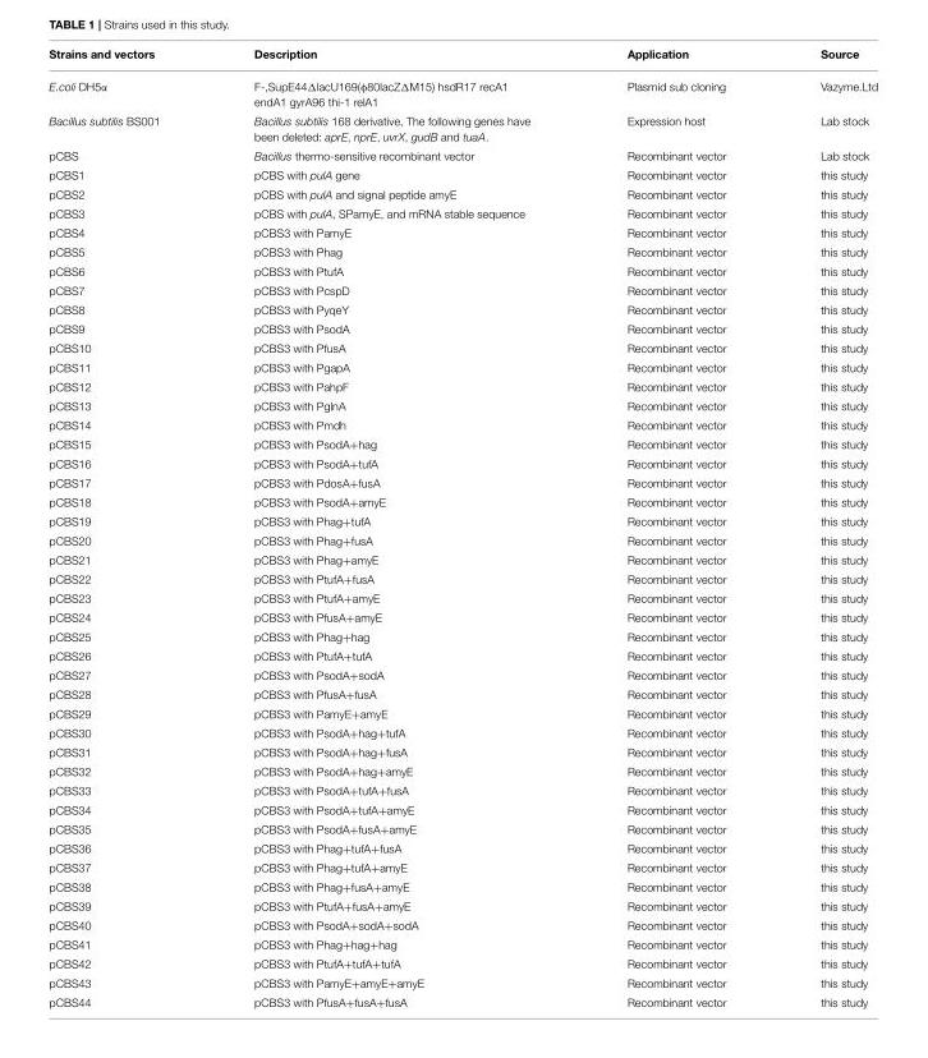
<table><thead><tr><td>Strains and vectors</td><td>Description</td><td>Application</td><td>Source</td></tr></thead><tbody><tr><td>E.coli DH5α</td><td>F-,SupE44ΔlacU169(φ80lacZΔM15) hsdR17 recA1 endA1 gyrA96 thi-1 relA1</td><td>Plasmid sub cloning</td><td>Vazyme.Ltd</td></tr><tr><td>Bacillus subtilis BS001</td><td>Bacillus subtilis 168 derivative, The following genes have been deleted: aprE, nprE, uvrX, gudB and tuaA.</td><td>Expression host</td><td>Lab stock</td></tr><tr><td>pCBS</td><td>Bacillus thermo-sensitive recombinant vector</td><td>Recombinant vector</td><td>Lab stock</td></tr><tr><td>pCBS1</td><td>pCBS with pulA gene</td><td>Recombinant vector</td><td>this study</td></tr><tr><td>pCBS2</td><td>pCBS with pulA and signal peptide amyE</td><td>Recombinant vector</td><td>this study</td></tr><tr><td>pCBS3</td><td>pCBS with pulA, SPamyE, and mRNA stable sequence</td><td>Recombinant vector</td><td>this study</td></tr><tr><td>pCBS4</td><td>pCBS3 with PamyE</td><td>Recombinant vector</td><td>this study</td></tr><tr><td>pCBS5</td><td>pCBS3 with Phag</td><td>Recombinant vector</td><td>this study</td></tr><tr><td>pCBS6</td><td>pCBS3 with PtufA</td><td>Recombinant vector</td><td>this study</td></tr><tr><td>pCBS7</td><td>pCBS3 with PcspD</td><td>Recombinant vector</td><td>this study</td></tr><tr><td>pCBS8</td><td>pCBS3 with PyqeY</td><td>Recombinant vector</td><td>this study</td></tr><tr><td>pCBS9</td><td>pCBS3 with PsodA</td><td>Recombinant vector</td><td>this study</td></tr><tr><td>pCBS10</td><td>pCBS3 with PfusA</td><td>Recombinant vector</td><td>this study</td></tr><tr><td>pCBS11</td><td>pCBS3 with PgapA</td><td>Recombinant vector</td><td>this study</td></tr><tr><td>pCBS12</td><td>pCBS3 with PahpF</td><td>Recombinant vector</td><td>this study</td></tr><tr><td>pCBS13</td><td>pCBS3 with PglnA</td><td>Recombinant vector</td><td>this study</td></tr><tr><td>pCBS14</td><td>pCBS3 with Pmdh</td><td>Recombinant vector</td><td>this study</td></tr><tr><td>pCBS15</td><td>pCBS3 with PsodA+hag</td><td>Recombinant vector</td><td>this study</td></tr><tr><td>pCBS16</td><td>pCBS3 with PsodA+tufA</td><td>Recombinant vector</td><td>this study</td></tr><tr><td>pCBS17</td><td>pCBS3 with PdosA+fusA</td><td>Recombinant vector</td><td>this study</td></tr><tr><td>pCBS18</td><td>pCBS3 with PsodA+amyE</td><td>Recombinant vector</td><td>this study</td></tr><tr><td>pCBS19</td><td>pCBS3 with Phag+tufA</td><td>Recombinant vector</td><td>this study</td></tr><tr><td>pCBS20</td><td>pCBS3 with Phag+fusA</td><td>Recombinant vector</td><td>this study</td></tr><tr><td>pCBS21</td><td>pCBS3 with Phag+amyE</td><td>Recombinant vector</td><td>this study</td></tr><tr><td>pCBS22</td><td>pCBS3 with PtufA+fusA</td><td>Recombinant vector</td><td>this study</td></tr><tr><td>pCBS23</td><td>pCBS3 with PtufA+amyE</td><td>Recombinant vector</td><td>this study</td></tr><tr><td>pCBS24</td><td>pCBS3 with PfusA+amyE</td><td>Recombinant vector</td><td>this study</td></tr><tr><td>pCBS25</td><td>pCBS3 with Phag+hag</td><td>Recombinant vector</td><td>this study</td></tr><tr><td>pCBS26</td><td>pCBS3 with PtufA+tufA</td><td>Recombinant vector</td><td>this study</td></tr><tr><td>pCBS27</td><td>pCBS3 with PsodA+sodA</td><td>Recombinant vector</td><td>this study</td></tr><tr><td>pCBS28</td><td>pCBS3 with PfusA+fusA</td><td>Recombinant vector</td><td>this study</td></tr><tr><td>pCBS29</td><td>pCBS3 with PamyE+amyE</td><td>Recombinant vector</td><td>this study</td></tr><tr><td>pCBS30</td><td>pCBS3 with PsodA+hag+tufA</td><td>Recombinant vector</td><td>this study</td></tr><tr><td>pCBS31</td><td>pCBS3 with PsodA+hag+fusA</td><td>Recombinant vector</td><td>this study</td></tr><tr><td>pCBS32</td><td>pCBS3 with PsodA+hag+amyE</td><td>Recombinant vector</td><td>this study</td></tr><tr><td>pCBS33</td><td>pCBS3 with PsodA+tufA+fusA</td><td>Recombinant vector</td><td>this study</td></tr><tr><td>pCBS34</td><td>pCBS3 with PsodA+tufA+amyE</td><td>Recombinant vector</td><td>this study</td></tr><tr><td>pCBS35</td><td>pCBS3 with PsodA+fusA+amyE</td><td>Recombinant vector</td><td>this study</td></tr><tr><td>pCBS36</td><td>pCBS3 with Phag+tufA+fusA</td><td>Recombinant vector</td><td>this study</td></tr><tr><td>pCBS37</td><td>pCBS3 with Phag+tufA+amyE</td><td>Recombinant vector</td><td>this study</td></tr><tr><td>pCBS38</td><td>pCBS3 with Phag+fusA+amyE</td><td>Recombinant vector</td><td>this study</td></tr><tr><td>pCBS39</td><td>pCBS3 with PtufA+fusA+amyE</td><td>Recombinant vector</td><td>this study</td></tr><tr><td>pCBS40</td><td>pCBS3 with PsodA+sodA+sodA</td><td>Recombinant vector</td><td>this study</td></tr><tr><td>pCBS41</td><td>pCBS3 with Phag+hag+hag</td><td>Recombinant vector</td><td>this study</td></tr><tr><td>pCBS42</td><td>pCBS3 with PtufA+tufA+tufA</td><td>Recombinant vector</td><td>this study</td></tr><tr><td>pCBS43</td><td>pCBS3 with PamyE+amyE+amyE</td><td>Recombinant vector</td><td>this study</td></tr><tr><td>pCBS44</td><td>pCBS3 with PfusA+fusA+fusA</td><td>Recombinant vector</td><td>this study</td></tr></tbody></table>